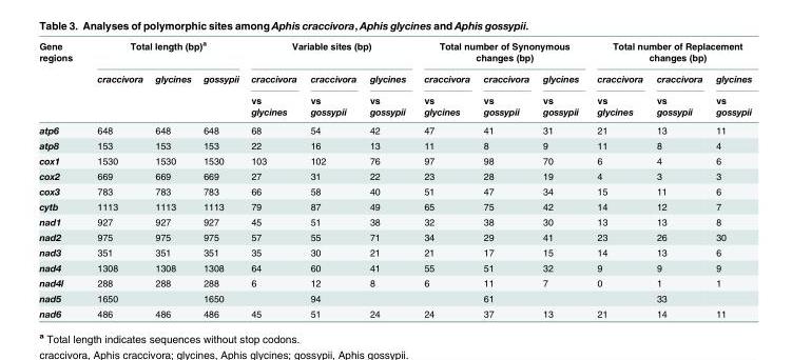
<table><thead><tr><td rowspan="3">Gene regions</td><td colspan="3">Total length (bp)<sup>a</sup></td><td colspan="3">Variable sites (bp)</td><td colspan="3">Total number of Synonymous changes (bp)</td><td colspan="3">Total number of Replacement changes (bp)</td></tr><tr><td rowspan="2">craccivora</td><td rowspan="2">glycines</td><td rowspan="2">gossypii</td><td rowspan="2">craccivora vs glycines</td><td rowspan="2">craccivora vs gossypii</td><td rowspan="2">glycines vs gossypii</td><td rowspan="2">craccivora vs glycines</td><td rowspan="2">craccivora vs gossypii</td><td rowspan="2">glycines vs gossypii</td><td rowspan="2">craccivora vs glycines</td><td rowspan="2">craccivora vs gossypii</td><td rowspan="2">glycines vs gossypii</td></tr><tr></tr></thead><tbody><tr><td>atp6</td><td>648</td><td>648</td><td>648</td><td>68</td><td>54</td><td>42</td><td>47</td><td>41</td><td>31</td><td>21</td><td>13</td><td>11</td></tr><tr><td>atp8</td><td>153</td><td>153</td><td>153</td><td>22</td><td>16</td><td>13</td><td>11</td><td>8</td><td>9</td><td>11</td><td>8</td><td>4</td></tr><tr><td>cox1</td><td>1530</td><td>1530</td><td>1530</td><td>103</td><td>102</td><td>76</td><td>97</td><td>98</td><td>70</td><td>6</td><td>4</td><td>6</td></tr><tr><td>cox2</td><td>669</td><td>669</td><td>669</td><td>27</td><td>31</td><td>22</td><td>23</td><td>28</td><td>19</td><td>4</td><td>3</td><td>3</td></tr><tr><td>cox3</td><td>783</td><td>783</td><td>783</td><td>66</td><td>58</td><td>40</td><td>51</td><td>47</td><td>34</td><td>15</td><td>11</td><td>6</td></tr><tr><td>cytb</td><td>1113</td><td>1113</td><td>1113</td><td>79</td><td>87</td><td>49</td><td>65</td><td>75</td><td>42</td><td>14</td><td>12</td><td>7</td></tr><tr><td>nad1</td><td>927</td><td>927</td><td>927</td><td>45</td><td>51</td><td>38</td><td>32</td><td>38</td><td>30</td><td>13</td><td>13</td><td>8</td></tr><tr><td>nad2</td><td>975</td><td>975</td><td>975</td><td>57</td><td>55</td><td>71</td><td>34</td><td>29</td><td>41</td><td>23</td><td>26</td><td>30</td></tr><tr><td>nad3</td><td>351</td><td>351</td><td>351</td><td>35</td><td>30</td><td>21</td><td>21</td><td>17</td><td>15</td><td>14</td><td>13</td><td>6</td></tr><tr><td>nad4</td><td>1308</td><td>1308</td><td>1308</td><td>64</td><td>60</td><td>41</td><td>55</td><td>51</td><td>32</td><td>9</td><td>9</td><td>9</td></tr><tr><td>nad4l</td><td>288</td><td>288</td><td>288</td><td>6</td><td>12</td><td>8</td><td>6</td><td>11</td><td>7</td><td>0</td><td>1</td><td>1</td></tr><tr><td>nad5</td><td>1650</td><td></td><td>1650</td><td></td><td>94</td><td></td><td></td><td>61</td><td></td><td></td><td>33</td><td></td></tr><tr><td>nad6</td><td>486</td><td>486</td><td>486</td><td>45</td><td>51</td><td>24</td><td>24</td><td>37</td><td>13</td><td>21</td><td>14</td><td>11</td></tr></tbody></table>